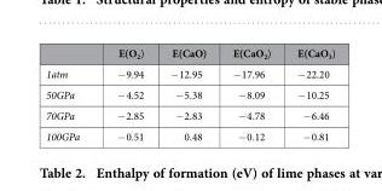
<table><thead><tr><td></td><td>E(O<sub>2</sub>)</td><td>E(CaO)</td><td>E(CaO<sub>2</sub>)</td><td>E(CaO<sub>3</sub>)</td></tr></thead><tbody><tr><td>1atm</td><td>− 9.94</td><td>− 12.95</td><td>− 17.96</td><td>− 22.20</td></tr><tr><td>50GPa</td><td>− 4.52</td><td>− 5.38</td><td>− 8.09</td><td>− 10.25</td></tr><tr><td>70GPa</td><td>− 2.85</td><td>− 2.83</td><td>− 4.78</td><td>− 6.46</td></tr><tr><td>100GPa</td><td>− 0.51</td><td>0.48</td><td>− 0.12</td><td>− 0.81</td></tr></tbody></table>